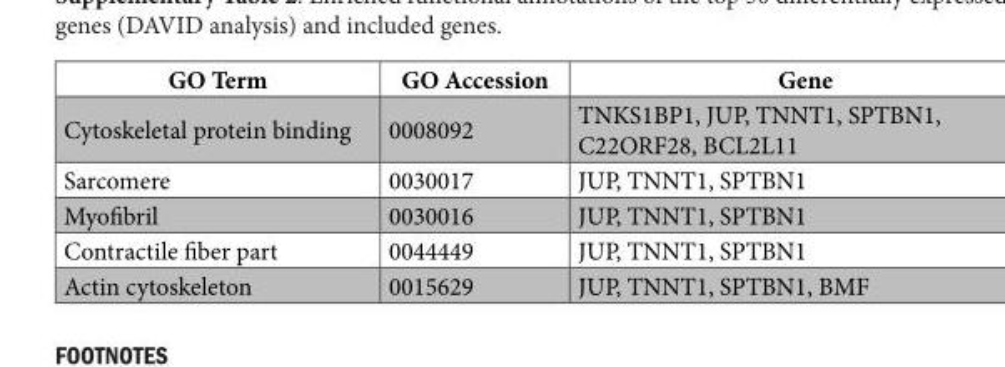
<table><thead><tr><td>GO Term</td><td>GO Accession</td><td>Gene</td></tr></thead><tbody><tr><td>Cytoskeletal protein binding</td><td>0008092</td><td>TNKS1BP1, JUP, TNNT1, SPTBN1, C22ORF28, BCL2L11</td></tr><tr><td>Sarcomere</td><td>0030017</td><td>JUP, TNNT1, SPTBN1</td></tr><tr><td>Myofibril</td><td>0030016</td><td>JUP, TNNT1, SPTBN1</td></tr><tr><td>Contractile fiber part</td><td>0044449</td><td>JUP, TNNT1, SPTBN1</td></tr><tr><td>Actin cytoskeleton</td><td>0015629</td><td>JUP, TNNT1, SPTBN1, BMF</td></tr></tbody></table>